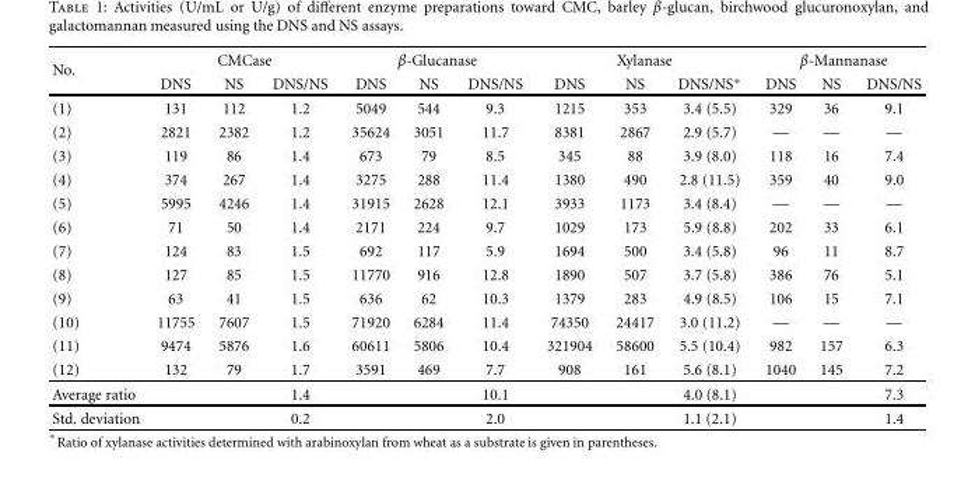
<table><thead><tr><td rowspan="2">No.</td><td colspan="3">CMCase</td><td colspan="3">β-Glucanase</td><td colspan="3">Xylanase</td><td colspan="3">β-Mannanase</td></tr><tr><td>DNS</td><td>NS</td><td>DNS/NS</td><td>DNS</td><td>NS</td><td>DNS/NS</td><td>DNS</td><td>NS</td><td>DNS/NS∗</td><td>DNS</td><td>NS</td><td>DNS/NS</td></tr></thead><tbody><tr><td>(1)</td><td>131</td><td>112</td><td>1.2</td><td>5049</td><td>544</td><td>9.3</td><td>1215</td><td>353</td><td>3.4 (5.5)</td><td>329</td><td>36</td><td>9.1</td></tr><tr><td>(2)</td><td>2821</td><td>2382</td><td>1.2</td><td>35624</td><td>3051</td><td>11.7</td><td>8381</td><td>2867</td><td>2.9 (5.7)</td><td>—</td><td>—</td><td>—</td></tr><tr><td>(3)</td><td>119</td><td>86</td><td>1.4</td><td>673</td><td>79</td><td>8.5</td><td>345</td><td>88</td><td>3.9 (8.0)</td><td>118</td><td>16</td><td>7.4</td></tr><tr><td>(4)</td><td>374</td><td>267</td><td>1.4</td><td>3275</td><td>288</td><td>11.4</td><td>1380</td><td>490</td><td>2.8 (11.5)</td><td>359</td><td>40</td><td>9.0</td></tr><tr><td>(5)</td><td>5995</td><td>4246</td><td>1.4</td><td>31915</td><td>2628</td><td>12.1</td><td>3933</td><td>1173</td><td>3.4 (8.4)</td><td>—</td><td>—</td><td>—</td></tr><tr><td>(6)</td><td>71</td><td>50</td><td>1.4</td><td>2171</td><td>224</td><td>9.7</td><td>1029</td><td>173</td><td>5.9 (8.8)</td><td>202</td><td>33</td><td>6.1</td></tr><tr><td>(7)</td><td>124</td><td>83</td><td>1.5</td><td>692</td><td>117</td><td>5.9</td><td>1694</td><td>500</td><td>3.4 (5.8)</td><td>96</td><td>11</td><td>8.7</td></tr><tr><td>(8)</td><td>127</td><td>85</td><td>1.5</td><td>11770</td><td>916</td><td>12.8</td><td>1890</td><td>507</td><td>3.7 (5.8)</td><td>386</td><td>76</td><td>5.1</td></tr><tr><td>(9)</td><td>63</td><td>41</td><td>1.5</td><td>636</td><td>62</td><td>10.3</td><td>1379</td><td>283</td><td>4.9 (8.5)</td><td>106</td><td>15</td><td>7.1</td></tr><tr><td>(10)</td><td>11755</td><td>7607</td><td>1.5</td><td>71920</td><td>6284</td><td>11.4</td><td>74350</td><td>24417</td><td>3.0 (11.2)</td><td>—</td><td>—</td><td>—</td></tr><tr><td>(11)</td><td>9474</td><td>5876</td><td>1.6</td><td>60611</td><td>5806</td><td>10.4</td><td>321904</td><td>58600</td><td>5.5 (10.4)</td><td>982</td><td>157</td><td>6.3</td></tr><tr><td>(12)</td><td>132</td><td>79</td><td>1.7</td><td>3591</td><td>469</td><td>7.7</td><td>908</td><td>161</td><td>5.6 (8.1)</td><td>1040</td><td>145</td><td>7.2</td></tr><tr><td>Average ratio</td><td></td><td></td><td>1.4</td><td></td><td></td><td>10.1</td><td></td><td></td><td>4.0 (8.1)</td><td></td><td></td><td>7.3</td></tr><tr><td>Std. deviation</td><td></td><td></td><td>0.2</td><td></td><td></td><td>2.0</td><td></td><td></td><td>1.1 (2.1)</td><td></td><td></td><td>1.4</td></tr></tbody></table>